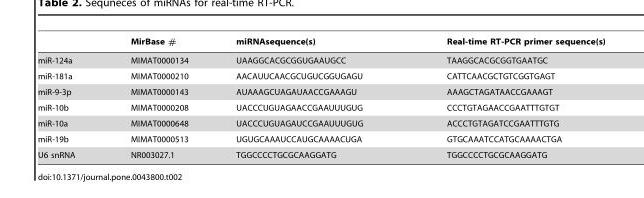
<table><thead><tr><td></td><td>MirBase #</td><td>miRNAsequence(s)</td><td>Real-time RT-PCR primer sequence(s)</td></tr></thead><tbody><tr><td>miR-124a</td><td>MIMAT0000134</td><td>UAAGGCACGCGGUGAAUGCC</td><td>TAAGGCACGCGGTGAATGC</td></tr><tr><td>miR-181a</td><td>MIMAT0000210</td><td>AACAUUCAACGCUGUCGGUGAGU</td><td>CATTCAACGCTGTCGGTGAGT</td></tr><tr><td>miR-9-3p</td><td>MIMAT0000143</td><td>AUAAAGCUAGAUAACCGAAAGU</td><td>AAAGCTAGATAACCGAAAGT</td></tr><tr><td>miR-10b</td><td>MIMAT0000208</td><td>UACCCUGUAGAACCGAAUUUGUG</td><td>CCCTGTAGAACCGAATTTGTGT</td></tr><tr><td>miR-10a</td><td>MIMAT0000648</td><td>UACCCUGUAGAUCCGAAUUUGUG</td><td>ACCCTGTAGATCCGAATTTGTG</td></tr><tr><td>miR-19b</td><td>MIMAT0000513</td><td>UGUGCAAAUCCAUGCAAAACUGA</td><td>GTGCAAATCCATGCAAAACTGA</td></tr><tr><td>U6 snRNA</td><td>NR003027.1</td><td>TGGCCCCTGCGCAAGGATG</td><td>TGGCCCCTGCGCAAGGATG</td></tr></tbody></table>